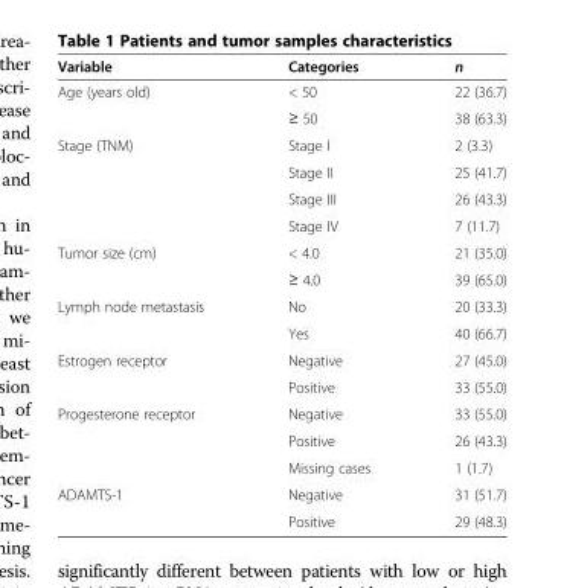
<table><thead><tr><td>Variable</td><td>Categories</td><td>n</td></tr></thead><tbody><tr><td rowspan="2">Age (years old)</td><td>&lt; 50</td><td>22 (36.7)</td></tr><tr><td>≥ 50</td><td>38 (63.3)</td></tr><tr><td rowspan="4">Stage (TNM)</td><td>Stage I</td><td>2 (3.3)</td></tr><tr><td>Stage II</td><td>25 (41.7)</td></tr><tr><td>Stage III</td><td>26 (43.3)</td></tr><tr><td>Stage IV</td><td>7 (11.7)</td></tr><tr><td rowspan="2">Tumor size (cm)</td><td>&lt; 4.0</td><td>21 (35.0)</td></tr><tr><td>≥ 4.0</td><td>39 (65.0)</td></tr><tr><td rowspan="2">Lymph node metastasis</td><td>No</td><td>20 (33.3)</td></tr><tr><td>Yes</td><td>40 (66.7)</td></tr><tr><td rowspan="2">Estrogen receptor</td><td>Negative</td><td>27 (45.0)</td></tr><tr><td>Positive</td><td>33 (55.0)</td></tr><tr><td rowspan="3">Progesterone receptor</td><td>Negative</td><td>33 (55.0)</td></tr><tr><td>Positive</td><td>26 (43.3)</td></tr><tr><td>Missing cases</td><td>1 (1.7)</td></tr><tr><td rowspan="2">ADAMTS-1</td><td>Negative</td><td>31 (51.7)</td></tr><tr><td>Positive</td><td>29 (48.3)</td></tr></tbody></table>